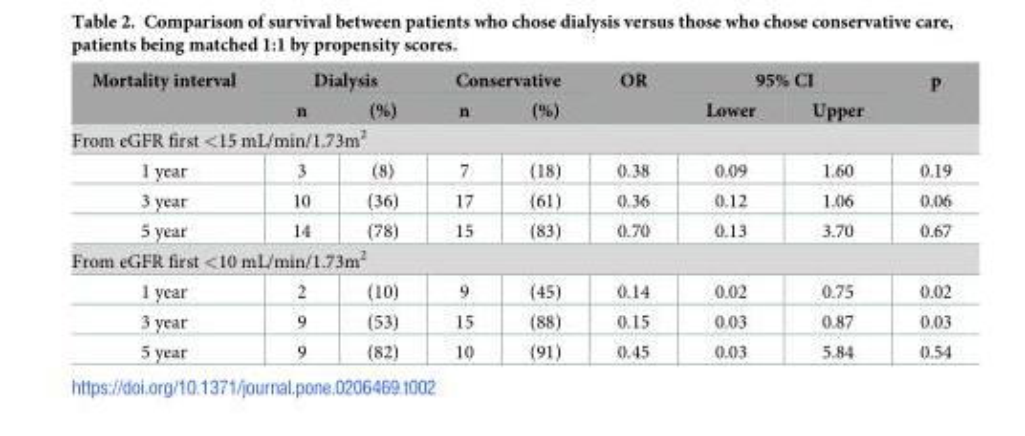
<table><thead><tr><td rowspan="2">Mortality interval</td><td colspan="2">Dialysis</td><td colspan="2">Conservative</td><td rowspan="2">OR</td><td colspan="2">95% CI</td><td rowspan="2">p</td></tr><tr><td>n</td><td>(%)</td><td>n</td><td>(%)</td><td>Lower</td><td>Upper</td></tr></thead><tbody><tr><td colspan="9">From eGFR first &lt;15 mL/min/1.73m<sup>2</sup></td></tr><tr><td>1 year</td><td>3</td><td>(8)</td><td>7</td><td>(18)</td><td>0.38</td><td>0.09</td><td>1.60</td><td>0.19</td></tr><tr><td>3 year</td><td>10</td><td>(36)</td><td>17</td><td>(61)</td><td>0.36</td><td>0.12</td><td>1.06</td><td>0.06</td></tr><tr><td>5 year</td><td>14</td><td>(78)</td><td>15</td><td>(83)</td><td>0.70</td><td>0.13</td><td>3.70</td><td>0.67</td></tr><tr><td colspan="9">From eGFR first &lt;10 mL/min/1.73m<sup>2</sup></td></tr><tr><td>1 year</td><td>2</td><td>(10)</td><td>9</td><td>(45)</td><td>0.14</td><td>0.02</td><td>0.75</td><td>0.02</td></tr><tr><td>3 year</td><td>9</td><td>(53)</td><td>15</td><td>(88)</td><td>0.15</td><td>0.03</td><td>0.87</td><td>0.03</td></tr><tr><td>5 year</td><td>9</td><td>(82)</td><td>10</td><td>(91)</td><td>0.45</td><td>0.03</td><td>5.84</td><td>0.54</td></tr></tbody></table>